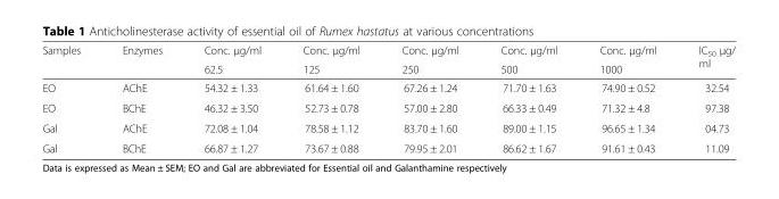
<table><thead><tr><td rowspan="2">Samples</td><td rowspan="2">Enzymes</td><td rowspan="2">Conc. μg/ml 62.5</td><td rowspan="2">Conc. μg/ml 125</td><td rowspan="2">Conc. μg/ml 250</td><td rowspan="2">Conc. μg/ml 500</td><td rowspan="2">Conc. μg/ml 1000</td><td rowspan="2">IC<sub>50</sub> μg/ ml</td></tr><tr></tr></thead><tbody><tr><td>EO</td><td>AChE</td><td>54.32 ± 1.33</td><td>61.64 ± 1.60</td><td>67.26 ± 1.24</td><td>71.70 ± 1.63</td><td>74.90 ± 0.52</td><td>32.54</td></tr><tr><td>EO</td><td>BChE</td><td>46.32 ± 3.50</td><td>52.73 ± 0.78</td><td>57.00 ± 2.80</td><td>66.33 ± 0.49</td><td>71.32 ± 4.8</td><td>97.38</td></tr><tr><td>Gal</td><td>AChE</td><td>72.08 ± 1.04</td><td>78.58 ± 1.12</td><td>83.70 ± 1.60</td><td>89.00 ± 1.15</td><td>96.65 ± 1.34</td><td>04.73</td></tr><tr><td>Gal</td><td>BChE</td><td>66.87 ± 1.27</td><td>73.67 ± 0.88</td><td>79.95 ± 2.01</td><td>86.62 ± 1.67</td><td>91.61 ± 0.43</td><td>11.09</td></tr></tbody></table>